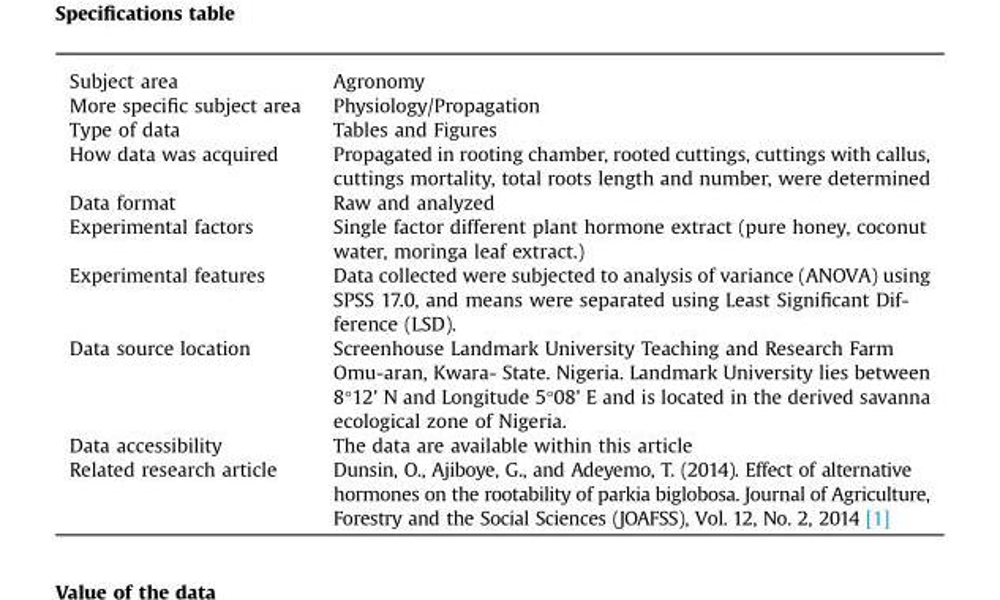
<table><tbody><tr><td>Subject area</td><td>Agronomy</td></tr><tr><td>More specific subject area</td><td>Physiology/Propagation</td></tr><tr><td>Type of data</td><td>Tables and Figures</td></tr><tr><td>How data was acquired</td><td>Propagated in rooting chamber, rooted cuttings, cuttings with callus, cuttings mortality, total roots length and number, were determined</td></tr><tr><td>Data format</td><td>Raw and analyzed</td></tr><tr><td>Experimental factors</td><td>Single factor different plant hormone extract (pure honey, coconut water, moringa leaf extract.)</td></tr><tr><td>Experimental features</td><td>Data collected were subjected to analysis of variance (ANOVA) using SPSS 17.0, and means were separated using Least Significant Dif- ference (LSD).</td></tr><tr><td>Data source location</td><td>Screenhouse Landmark University Teaching and Research Farm Omu-aran, Kwara- State. Nigeria. Landmark University lies between 8°12&#x27; N and Longitude 5°08&#x27; E and is located in the derived savanna ecological zone of Nigeria.</td></tr><tr><td>Data accessibility</td><td>The data are available within this article</td></tr><tr><td>Related research article</td><td>Dunsin, O., Ajiboye, G., and Adeyemo, T. (2014). Effect of alternative hormones on the rootability of parkia biglobosa. Journal of Agriculture, Forestry and the Social Sciences (JOAFSS), Vol. 12, No. 2, 2014 [1]</td></tr></tbody></table>